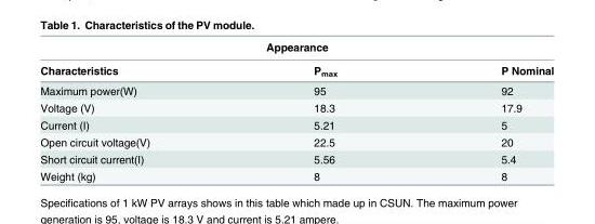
<table><thead><tr><td colspan="3">Appearance</td></tr><tr><td>Characteristics</td><td>P<sub>max</sub></td><td>P Nominal</td></tr></thead><tbody><tr><td>Maximum power(W)</td><td>95</td><td>92</td></tr><tr><td>Voltage (V)</td><td>18.3</td><td>17.9</td></tr><tr><td>Current (I)</td><td>5.21</td><td>5</td></tr><tr><td>Open circuit voltage(V)</td><td>22.5</td><td>20</td></tr><tr><td>Short circuit current(I)</td><td>5.56</td><td>5.4</td></tr><tr><td>Weight (kg)</td><td>8</td><td>8</td></tr></tbody></table>